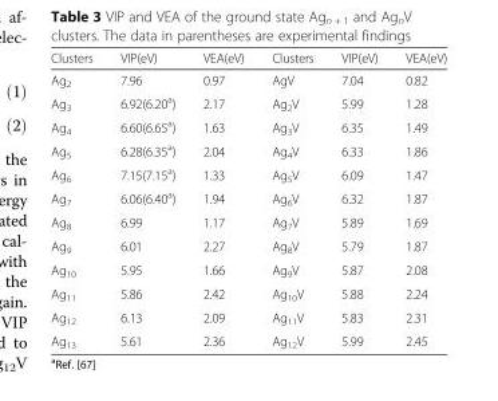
<table><thead><tr><td>Clusters</td><td>VIP(eV)</td><td>VEA(eV)</td><td>Clusters</td><td>VIP(eV)</td><td>VEA(eV)</td></tr></thead><tbody><tr><td>Ag<sub>2</sub></td><td>7.96</td><td>0.97</td><td>AgV</td><td>7.04</td><td>0.82</td></tr><tr><td>Ag<sub>3</sub></td><td>6.92(6.20<sup>a</sup>)</td><td>2.17</td><td>Ag<sub>2</sub>V</td><td>5.99</td><td>1.28</td></tr><tr><td>Ag<sub>4</sub></td><td>6.60(6.65<sup>a</sup>)</td><td>1.63</td><td>Ag<sub>3</sub>V</td><td>6.35</td><td>1.49</td></tr><tr><td>Ag<sub>5</sub></td><td>6.28(6.35<sup>a</sup>)</td><td>2.04</td><td>Ag<sub>4</sub>V</td><td>6.33</td><td>1.86</td></tr><tr><td>Ag<sub>6</sub></td><td>7.15(7.15<sup>a</sup>)</td><td>1.33</td><td>Ag<sub>5</sub>V</td><td>6.09</td><td>1.47</td></tr><tr><td>Ag<sub>7</sub></td><td>6.06(6.40<sup>a</sup>)</td><td>1.94</td><td>Ag<sub>6</sub>V</td><td>6.32</td><td>1.87</td></tr><tr><td>Ag<sub>8</sub></td><td>6.99</td><td>1.17</td><td>Ag<sub>7</sub>V</td><td>5.89</td><td>1.69</td></tr><tr><td>Ag<sub>9</sub></td><td>6.01</td><td>2.27</td><td>Ag<sub>8</sub>V</td><td>5.79</td><td>1.87</td></tr><tr><td>Ag<sub>10</sub></td><td>5.95</td><td>1.66</td><td>Ag<sub>9</sub>V</td><td>5.87</td><td>2.08</td></tr><tr><td>Ag<sub>11</sub></td><td>5.86</td><td>2.42</td><td>Ag<sub>10</sub>V</td><td>5.88</td><td>2.24</td></tr><tr><td>Ag<sub>12</sub></td><td>6.13</td><td>2.09</td><td>Ag<sub>11</sub>V</td><td>5.83</td><td>2.31</td></tr><tr><td>Ag<sub>13</sub></td><td>5.61</td><td>2.36</td><td>Ag<sub>12</sub>V</td><td>5.99</td><td>2.45</td></tr></tbody></table>